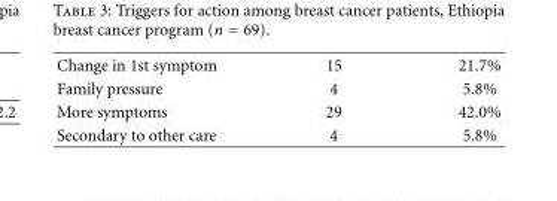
<table><tbody><tr><td>Change in 1st symptom</td><td>15</td><td>21.7%</td></tr><tr><td>Family pressure</td><td>4</td><td>5.8%</td></tr><tr><td>More symptoms</td><td>29</td><td>42.0%</td></tr><tr><td>Secondary to other care</td><td>4</td><td>5.8%</td></tr></tbody></table>